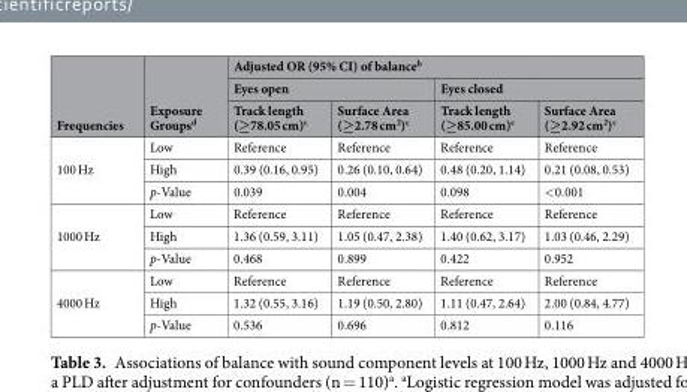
<table><thead><tr><td rowspan="3">Frequencies</td><td rowspan="3">Exposure Groups<sup>d</sup></td><td colspan="4">Adjusted OR (95% CI) of balance<sup>b</sup></td></tr><tr><td colspan="2">Eyes open</td><td colspan="2">Eyes closed</td></tr><tr><td>Track length (≥78.05 cm)<sup>c</sup></td><td>Surface Area (≥2.78 cm<sup>2</sup>)<sup>c</sup></td><td>Track length (≥85.00 cm)<sup>c</sup></td><td>Surface Area (≥2.92 cm<sup>2</sup>)<sup>c</sup></td></tr></thead><tbody><tr><td rowspan="3">100 Hz</td><td>Low</td><td>Reference</td><td>Reference</td><td>Reference</td><td>Reference</td></tr><tr><td>High</td><td>0.39 (0.16, 0.95)</td><td>0.26 (0.10, 0.64)</td><td>0.48 (0.20, 1.14)</td><td>0.21 (0.08, 0.53)</td></tr><tr><td>p-Value</td><td>0.039</td><td>0.004</td><td>0.098</td><td>&lt;0.001</td></tr><tr><td rowspan="3">1000 Hz</td><td>Low</td><td>Reference</td><td>Reference</td><td>Reference</td><td>Reference</td></tr><tr><td>High</td><td>1.36 (0.59, 3.11)</td><td>1.05 (0.47, 2.38)</td><td>1.40 (0.62, 3.17)</td><td>1.03 (0.46, 2.29)</td></tr><tr><td>p-Value</td><td>0.468</td><td>0.899</td><td>0.422</td><td>0.952</td></tr><tr><td rowspan="3">4000 Hz</td><td>Low</td><td>Reference</td><td>Reference</td><td>Reference</td><td>Reference</td></tr><tr><td>High</td><td>1.32 (0.55, 3.16)</td><td>1.19 (0.50, 2.80)</td><td>1.11 (0.47, 2.64)</td><td>2.00 (0.84, 4.77)</td></tr><tr><td>p-Value</td><td>0.536</td><td>0.696</td><td>0.812</td><td>0.116</td></tr></tbody></table>